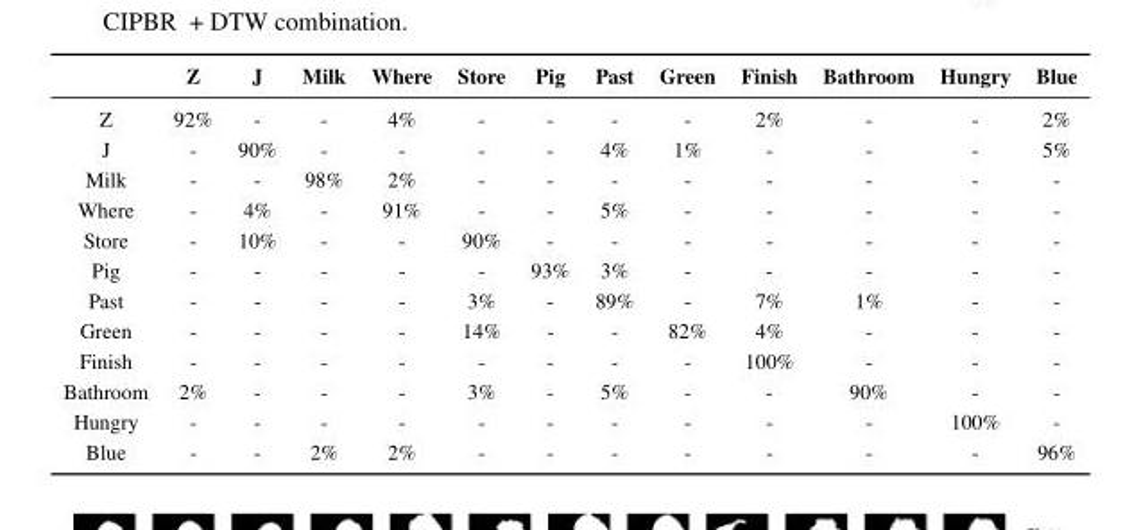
<table><thead><tr><td></td><td>Z</td><td>J</td><td>Milk</td><td>Where</td><td>Store</td><td>Pig</td><td>Past</td><td>Green</td><td>Finish</td><td>Bathroom</td><td>Hungry</td><td>Blue</td></tr></thead><tbody><tr><td>Z</td><td>92%</td><td>-</td><td>-</td><td>4%</td><td>-</td><td>-</td><td>-</td><td>-</td><td>2%</td><td>-</td><td>-</td><td>2%</td></tr><tr><td>J</td><td>-</td><td>90%</td><td>-</td><td>-</td><td>-</td><td>-</td><td>4%</td><td>1%</td><td>-</td><td>-</td><td>-</td><td>5%</td></tr><tr><td>Milk</td><td>-</td><td>-</td><td>98%</td><td>2%</td><td>-</td><td>-</td><td>-</td><td>-</td><td>-</td><td>-</td><td>-</td><td>-</td></tr><tr><td>Where</td><td>-</td><td>4%</td><td>-</td><td>91%</td><td>-</td><td>-</td><td>5%</td><td>-</td><td>-</td><td>-</td><td>-</td><td>-</td></tr><tr><td>Store</td><td>-</td><td>10%</td><td>-</td><td>-</td><td>90%</td><td>-</td><td>-</td><td>-</td><td>-</td><td>-</td><td>-</td><td>-</td></tr><tr><td>Pig</td><td>-</td><td>-</td><td>-</td><td>-</td><td>-</td><td>93%</td><td>3%</td><td>-</td><td>-</td><td>-</td><td>-</td><td>-</td></tr><tr><td>Past</td><td>-</td><td>-</td><td>-</td><td>-</td><td>3%</td><td>-</td><td>89%</td><td>-</td><td>7%</td><td>1%</td><td>-</td><td>-</td></tr><tr><td>Green</td><td>-</td><td>-</td><td>-</td><td>-</td><td>14%</td><td>-</td><td>-</td><td>82%</td><td>4%</td><td>-</td><td>-</td><td>-</td></tr><tr><td>Finish</td><td>-</td><td>-</td><td>-</td><td>-</td><td>-</td><td>-</td><td>-</td><td>-</td><td>100%</td><td>-</td><td>-</td><td>-</td></tr><tr><td>Bathroom</td><td>2%</td><td>-</td><td>-</td><td>-</td><td>3%</td><td>-</td><td>5%</td><td>-</td><td>-</td><td>90%</td><td>-</td><td>-</td></tr><tr><td>Hungry</td><td>-</td><td>-</td><td>-</td><td>-</td><td>-</td><td>-</td><td>-</td><td>-</td><td>-</td><td>-</td><td>100%</td><td>-</td></tr><tr><td>Blue</td><td>-</td><td>-</td><td>2%</td><td>2%</td><td>-</td><td>-</td><td>-</td><td>-</td><td>-</td><td>-</td><td>-</td><td>96%</td></tr></tbody></table>